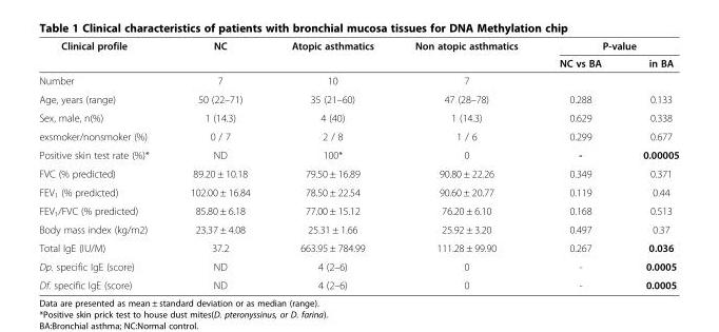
<table><thead><tr><td rowspan="2">Clinical profile</td><td rowspan="2">NC</td><td rowspan="2">Atopic asthmatics</td><td rowspan="2">Non atopic asthmatics</td><td colspan="2">P-value</td></tr><tr><td>NC vs BA</td><td>in BA</td></tr></thead><tbody><tr><td>Number</td><td>7</td><td>10</td><td>7</td><td></td><td></td></tr><tr><td>Age, years (range)</td><td>50 (22–71)</td><td>35 (21–60)</td><td>47 (28–78)</td><td>0.288</td><td>0.133</td></tr><tr><td>Sex, male, n(%)</td><td>1 (14.3)</td><td>4 (40)</td><td>1 (14.3)</td><td>0.629</td><td>0.338</td></tr><tr><td>exsmoker/nonsmoker (%)</td><td>0 / 7</td><td>2 / 8</td><td>1 / 6</td><td>0.299</td><td>0.677</td></tr><tr><td>Positive skin test rate (%)*</td><td>ND</td><td>100*</td><td>0</td><td>-</td><td>0.00005</td></tr><tr><td>FVC (% predicted)</td><td>89.20 ± 10.18</td><td>79.50 ± 16.89</td><td>90.80 ± 22.26</td><td>0.349</td><td>0.371</td></tr><tr><td>FEV<sub>1</sub> (% predicted)</td><td>102.00 ± 16.84</td><td>78.50 ± 22.54</td><td>90.60 ± 20.77</td><td>0.119</td><td>0.44</td></tr><tr><td>FEV<sub>1</sub>/FVC (% predicted)</td><td>85.80 ± 6.18</td><td>77.00 ± 15.12</td><td>76.20 ± 6.10</td><td>0.168</td><td>0.513</td></tr><tr><td>Body mass index (kg/m2)</td><td>23.37 ± 4.08</td><td>25.31 ± 1.66</td><td>25.92 ± 3.20</td><td>0.497</td><td>0.37</td></tr><tr><td>Total IgE (IU/M)</td><td>37.2</td><td>663.95 ± 784.99</td><td>111.28 ± 99.90</td><td>0.267</td><td>0.036</td></tr><tr><td>Dp. specific IgE (score)</td><td>ND</td><td>4 (2–6)</td><td>0</td><td>-</td><td>0.0005</td></tr><tr><td>Df. specific IgE (score)</td><td>ND</td><td>4 (2–6)</td><td>0</td><td>-</td><td>0.0005</td></tr></tbody></table>